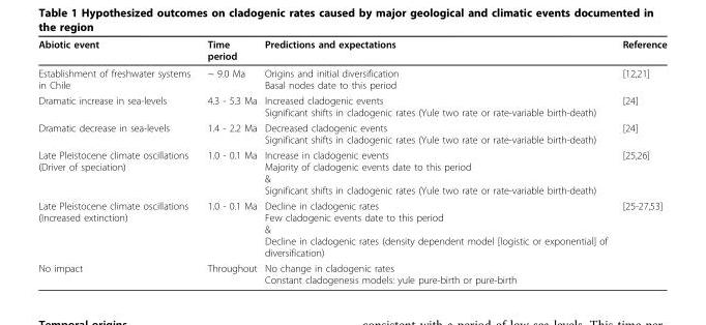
<table><thead><tr><td>Abiotic event</td><td>Time period</td><td>Predictions and expectations</td><td>Reference</td></tr></thead><tbody><tr><td>Establishment of freshwater systems in Chile</td><td>~ 9.0 Ma</td><td>Origins and initial diversification Basal nodes date to this period</td><td>[12,21]</td></tr><tr><td>Dramatic increase in sea-levels</td><td>4.3 - 5.3 Ma</td><td>Increased cladogenic events Significant shifts in cladogenic rates (Yule two rate or rate-variable birth-death)</td><td>[24]</td></tr><tr><td>Dramatic decrease in sea-levels</td><td>1.4 - 2.2 Ma</td><td>Decreased cladogenic events Significant shifts in cladogenic rates (Yule two rate or rate-variable birth-death)</td><td>[24]</td></tr><tr><td>Late Pleistocene climate oscillations (Driver of speciation)</td><td>1.0 - 0.1 Ma</td><td>Increase in cladogenic events Majority of cladogenic events date to this period &amp; Significant shifts in cladogenic rates (Yule two rate or rate-variable birth-death)</td><td>[25,26]</td></tr><tr><td>Late Pleistocene climate oscillations (Increased extinction)</td><td>1.0 - 0.1 Ma</td><td>Decline in cladogenic rates Few cladogenic events date to this period &amp; Decline in cladogenic rates (density dependent model [logistic or exponential] of diversification)</td><td>[25-27,53]</td></tr><tr><td>No impact</td><td>Throughout</td><td>No change in cladogenic rates Constant cladogenesis models: yule pure-birth or pure-birth</td><td></td></tr></tbody></table>